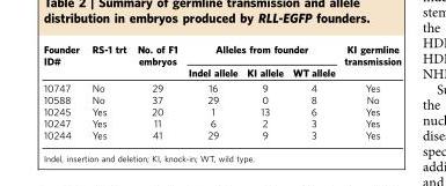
<table><thead><tr><td rowspan="2">Founder ID#</td><td rowspan="2">RS-1 trt</td><td rowspan="2">No. of F1 embryos</td><td colspan="3">Alleles from founder</td><td rowspan="2">KI germline transmission</td></tr><tr><td>Indel allele</td><td>KI allele</td><td>WT allele</td></tr></thead><tbody><tr><td>10747</td><td>No</td><td>29</td><td>16</td><td>9</td><td>4</td><td>Yes</td></tr><tr><td>10588</td><td>No</td><td>37</td><td>29</td><td>0</td><td>8</td><td>No</td></tr><tr><td>10245</td><td>Yes</td><td>20</td><td>1</td><td>13</td><td>6</td><td>Yes</td></tr><tr><td>10247</td><td>Yes</td><td>11</td><td>6</td><td>2</td><td>3</td><td>Yes</td></tr><tr><td>10244</td><td>Yes</td><td>41</td><td>29</td><td>9</td><td>3</td><td>Yes</td></tr></tbody></table>